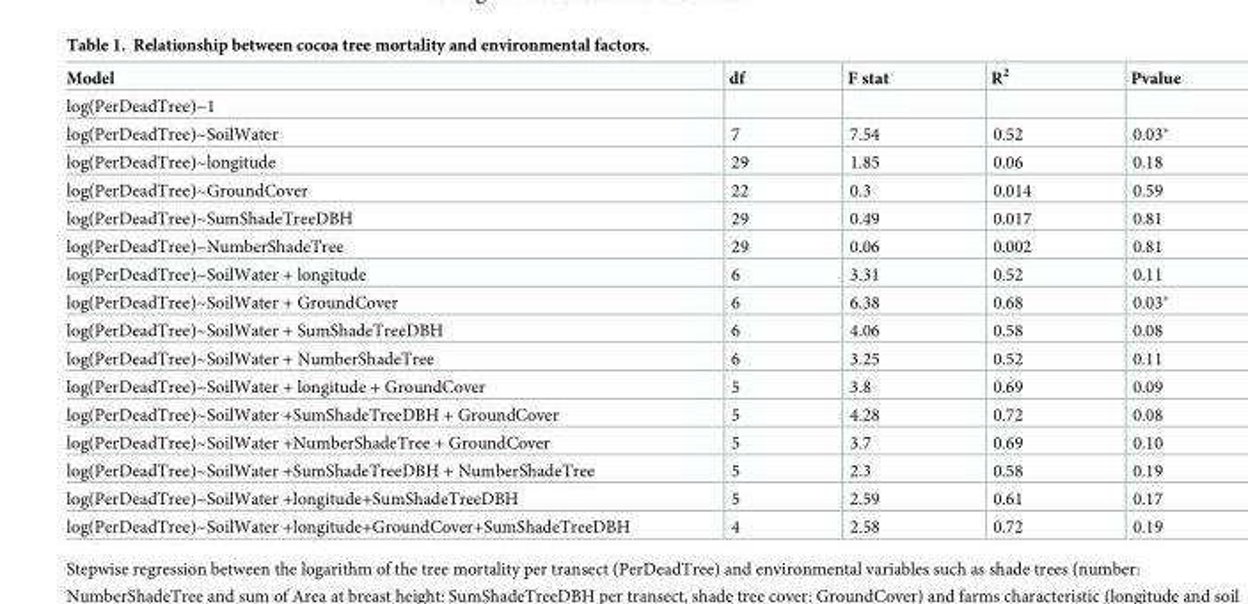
<table><thead><tr><td>Model</td><td>df</td><td>F stat</td><td>R<sup>2</sup></td><td>Pvalue</td></tr></thead><tbody><tr><td colspan="5">log(PerDeadTree)~1</td></tr><tr><td>log(PerDeadTree)~SoilWater</td><td>7</td><td>7.54</td><td>0.52</td><td>0.03*</td></tr><tr><td>log(PerDeadTree)~longitude</td><td>29</td><td>1.85</td><td>0.06</td><td>0.18</td></tr><tr><td>log(PerDeadTree)~GroundCover</td><td>22</td><td>0.3</td><td>0.014</td><td>0.59</td></tr><tr><td>log(PerDeadTree)~SumShadeTreeDBH</td><td>29</td><td>0.49</td><td>0.017</td><td>0.81</td></tr><tr><td>log(PerDeadTree)~NumberShadeTree</td><td>29</td><td>0.06</td><td>0.002</td><td>0.81</td></tr><tr><td>log(PerDeadTree)~SoilWater + longitude</td><td>6</td><td>3.31</td><td>0.52</td><td>0.11</td></tr><tr><td>log(PerDeadTree)~SoilWater + GroundCover</td><td>6</td><td>6.38</td><td>0.68</td><td>0.03*</td></tr><tr><td>log(PerDeadTree)~SoilWater + SumShadeTreeDBH</td><td>6</td><td>4.06</td><td>0.58</td><td>0.08</td></tr><tr><td>log(PerDeadTree)~SoilWater + NumberShadeTree</td><td>6</td><td>3.25</td><td>0.52</td><td>0.11</td></tr><tr><td>log(PerDeadTree)~SoilWater + longitude + GroundCover</td><td>5</td><td>3.8</td><td>0.69</td><td>0.09</td></tr><tr><td>log(PerDeadTree)~SoilWater +SumShadeTreeDBH + GroundCover</td><td>5</td><td>4.28</td><td>0.72</td><td>0.08</td></tr><tr><td>log(PerDeadTree)~SoilWater +NumberShadeTree + GroundCover</td><td>5</td><td>3.7</td><td>0.69</td><td>0.10</td></tr><tr><td>log(PerDeadTree)~SoilWater +SumShadeTreeDBH + NumberShadeTree</td><td>5</td><td>2.3</td><td>0.58</td><td>0.19</td></tr><tr><td>log(PerDeadTree)~SoilWater +longitude+SumShadeTreeDBH</td><td>5</td><td>2.59</td><td>0.61</td><td>0.17</td></tr><tr><td>log(PerDeadTree)~SoilWater +longitude+GroundCover+SumShadeTreeDBH</td><td>4</td><td>2.58</td><td>0.72</td><td>0.19</td></tr></tbody></table>